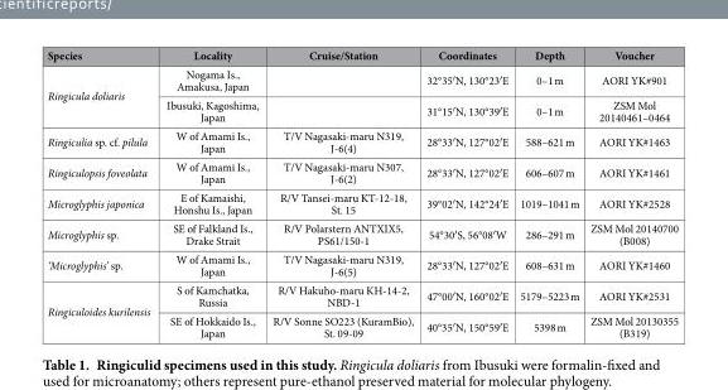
<table><thead><tr><td>Species</td><td>Locality</td><td>Cruise/Station</td><td>Coordinates</td><td>Depth</td><td>Voucher</td></tr></thead><tbody><tr><td rowspan="2">Ringicula doliaris</td><td>Nogama Is., Amakusa, Japan</td><td></td><td>32°35′ N, 130°23′ E</td><td>0–1 m</td><td>AORI YK#901</td></tr><tr><td>Ibusuki, Kagoshima, Japan</td><td></td><td>31°15′ N, 130°39′ E</td><td>0–1 m</td><td>ZSM Mol 20140461–0464</td></tr><tr><td>Ringiculia sp. cf. pilula</td><td>W of Amami Is., Japan</td><td>T/V Nagasaki-maru N319, J-6(4)</td><td>28°33′ N, 127°02′ E</td><td>588–621 m</td><td>AORI YK#1463</td></tr><tr><td>Ringiculopsis foveolata</td><td>W of Amami Is., Japan</td><td>T/V Nagasaki-maru N307, J-6(2)</td><td>28°33′ N, 127°02′ E</td><td>606–607 m</td><td>AORI YK#1461</td></tr><tr><td>Microglyphis japonica</td><td>E of Kamaishi, Honshu Is., Japan</td><td>R/V Tansei-maru KT-12-18, St. 15</td><td>39°02′ N, 142°24′ E</td><td>1019–1041 m</td><td>AORI YK#2528</td></tr><tr><td>Microglyphis sp.</td><td>SE of Falkland Is., Drake Strait</td><td>R/V Polarstern ANTXIX5, PS61/150-1</td><td>54°30′ S, 56°08′ W</td><td>286–291 m</td><td>ZSM Mol 20140700 (B008)</td></tr><tr><td>‘Microglyphis’ sp.</td><td>W of Amami Is., Japan</td><td>T/V Nagasaki-maru N319, J-6(5)</td><td>28°33′ N, 127°02′ E</td><td>608–631 m</td><td>AORI YK#1460</td></tr><tr><td rowspan="2">Ringiculoides kurilensis</td><td>S of Kamchatka, Russia</td><td>R/V Hakuho-maru KH-14-2, NBD-1</td><td>47°00′ N, 160°02′ E</td><td>5179–5223 m</td><td>AORI YK#2531</td></tr><tr><td>SE of Hokkaido Is., Japan</td><td>R/V Sonne SO223 (KuramBio), St. 09-09</td><td>40°35′ N, 150°59′ E</td><td>5398 m</td><td>ZSM Mol 20130355 (B319)</td></tr></tbody></table>